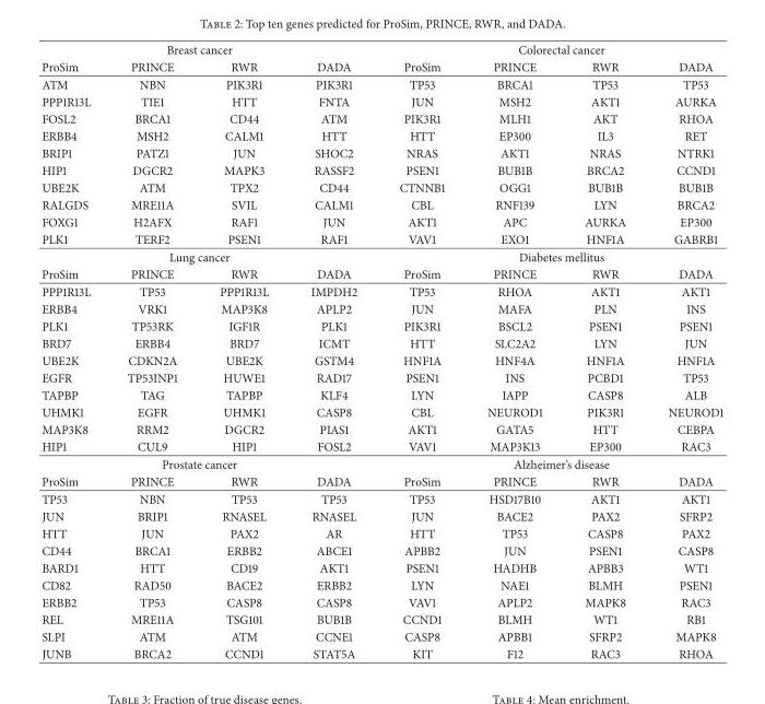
<table><thead><tr><td colspan="4">Breast cancer</td><td colspan="4">Colorectal cancer</td></tr><tr><td>ProSim</td><td>PRINCE</td><td>RWR</td><td>DADA</td><td>ProSim</td><td>PRINCE</td><td>RWR</td><td>DADA</td></tr></thead><tbody><tr><td>ATM</td><td>NBN</td><td>PIK3R1</td><td>PIK3R1</td><td>TP53</td><td>BRCA1</td><td>TP53</td><td>TP53</td></tr><tr><td>PPP1R13L</td><td>TIE1</td><td>HTT</td><td>FNTA</td><td>JUN</td><td>MSH2</td><td>AKT1</td><td>AURKA</td></tr><tr><td>FOSL2</td><td>BRCA1</td><td>CD44</td><td>ATM</td><td>PIK3R1</td><td>MLH1</td><td>AKT</td><td>RHOA</td></tr><tr><td>ERBB4</td><td>MSH2</td><td>CALM1</td><td>HTT</td><td>HTT</td><td>EP300</td><td>IL3</td><td>RET</td></tr><tr><td>BRIP1</td><td>PATZ1</td><td>JUN</td><td>SHOC2</td><td>NRAS</td><td>AKT1</td><td>NRAS</td><td>NTRK1</td></tr><tr><td>HIP1</td><td>DGCR2</td><td>MAPK3</td><td>RASSF2</td><td>PSEN1</td><td>BUB1B</td><td>BRCA2</td><td>CCND1</td></tr><tr><td>UBE2K</td><td>ATM</td><td>TPX2</td><td>CD44</td><td>CTNNB1</td><td>OGG1</td><td>BUB1B</td><td>BUB1B</td></tr><tr><td>RALGDS</td><td>MRE11A</td><td>SVIL</td><td>CALM1</td><td>CBL</td><td>RNF139</td><td>LYN</td><td>BRCA2</td></tr><tr><td>FOXG1</td><td>H2AFX</td><td>RAF1</td><td>JUN</td><td>AKT1</td><td>APC</td><td>AURKA</td><td>EP300</td></tr><tr><td>PLK1</td><td>TERF2</td><td>PSEN1</td><td>RAF1</td><td>VAV1</td><td>EXO1</td><td>HNF1A</td><td>GABRB1</td></tr><tr><td colspan="4">Lung cancer</td><td colspan="4">Diabetes mellitus</td></tr><tr><td>ProSim</td><td>PRINCE</td><td>RWR</td><td>DADA</td><td>ProSim</td><td>PRINCE</td><td>RWR</td><td>DADA</td></tr><tr><td>PPP1R13L</td><td>TP53</td><td>PPP1R13L</td><td>IMPDH2</td><td>TP53</td><td>RHOA</td><td>AKT1</td><td>AKT1</td></tr><tr><td>ERBB4</td><td>VRK1</td><td>MAP3K8</td><td>APLP2</td><td>JUN</td><td>MAFA</td><td>PLN</td><td>INS</td></tr><tr><td>PLK1</td><td>TP53RK</td><td>IGF1R</td><td>PLK1</td><td>PIK3R1</td><td>BSCL2</td><td>PSEN1</td><td>PSEN1</td></tr><tr><td>BRD7</td><td>ERBB4</td><td>BRD7</td><td>ICMT</td><td>HTT</td><td>SLC2A2</td><td>LYN</td><td>JUN</td></tr><tr><td>UBE2K</td><td>CDKN2A</td><td>UBE2K</td><td>GSTM4</td><td>HNF1A</td><td>HNF4A</td><td>HNF1A</td><td>HNF1A</td></tr><tr><td>EGFR</td><td>TP53INP1</td><td>HUWE1</td><td>RAD17</td><td>PSEN1</td><td>INS</td><td>PCBD1</td><td>TP53</td></tr><tr><td>TAPBP</td><td>TAG</td><td>TAPBP</td><td>KLF4</td><td>LYN</td><td>IAPP</td><td>CASP8</td><td>ALB</td></tr><tr><td>UHMK1</td><td>EGFR</td><td>UHMK1</td><td>CASP8</td><td>CBL</td><td>NEUROD1</td><td>PIK3R1</td><td>NEUROD1</td></tr><tr><td>MAP3K8</td><td>RRM2</td><td>DGCR2</td><td>PIAS1</td><td>AKT1</td><td>GATA5</td><td>HTT</td><td>CEBPA</td></tr><tr><td>HIP1</td><td>CUL9</td><td>HIP1</td><td>FOSL2</td><td>VAV1</td><td>MAP3K13</td><td>EP300</td><td>RAC3</td></tr><tr><td colspan="4">Prostate cancer</td><td colspan="4">Alzheimer’s disease</td></tr><tr><td>ProSim</td><td>PRINCE</td><td>RWR</td><td>DADA</td><td>ProSim</td><td>PRINCE</td><td>RWR</td><td>DADA</td></tr><tr><td>TP53</td><td>NBN</td><td>TP53</td><td>TP53</td><td>TP53</td><td>HSD17B10</td><td>AKT1</td><td>AKT1</td></tr><tr><td>JUN</td><td>BRIP1</td><td>RNASEL</td><td>RNASEL</td><td>JUN</td><td>BACE2</td><td>PAX2</td><td>SFRP2</td></tr><tr><td>HTT</td><td>JUN</td><td>PAX2</td><td>AR</td><td>HTT</td><td>TP53</td><td>CASP8</td><td>PAX2</td></tr><tr><td>CD44</td><td>BRCA1</td><td>ERBB2</td><td>ABCE1</td><td>APBB2</td><td>JUN</td><td>PSEN1</td><td>CASP8</td></tr><tr><td>BARD1</td><td>HTT</td><td>CD19</td><td>AKT1</td><td>PSEN1</td><td>HADHB</td><td>APBB3</td><td>WT1</td></tr><tr><td>CD82</td><td>RAD50</td><td>BACE2</td><td>ERBB2</td><td>LYN</td><td>NAE1</td><td>BLMH</td><td>PSEN1</td></tr><tr><td>ERBB2</td><td>TP53</td><td>CASP8</td><td>CASP8</td><td>VAV1</td><td>APLP2</td><td>MAPK8</td><td>RAC3</td></tr><tr><td>REL</td><td>MRE11A</td><td>TSG101</td><td>BUB1B</td><td>CCND1</td><td>BLMH</td><td>WT1</td><td>RB1</td></tr><tr><td>SLPI</td><td>ATM</td><td>ATM</td><td>CCNE1</td><td>CASP8</td><td>APBB1</td><td>SFRP2</td><td>MAPK8</td></tr><tr><td>JUNB</td><td>BRCA2</td><td>CCND1</td><td>STAT5A</td><td>KIT</td><td>F12</td><td>RAC3</td><td>RHOA</td></tr></tbody></table>